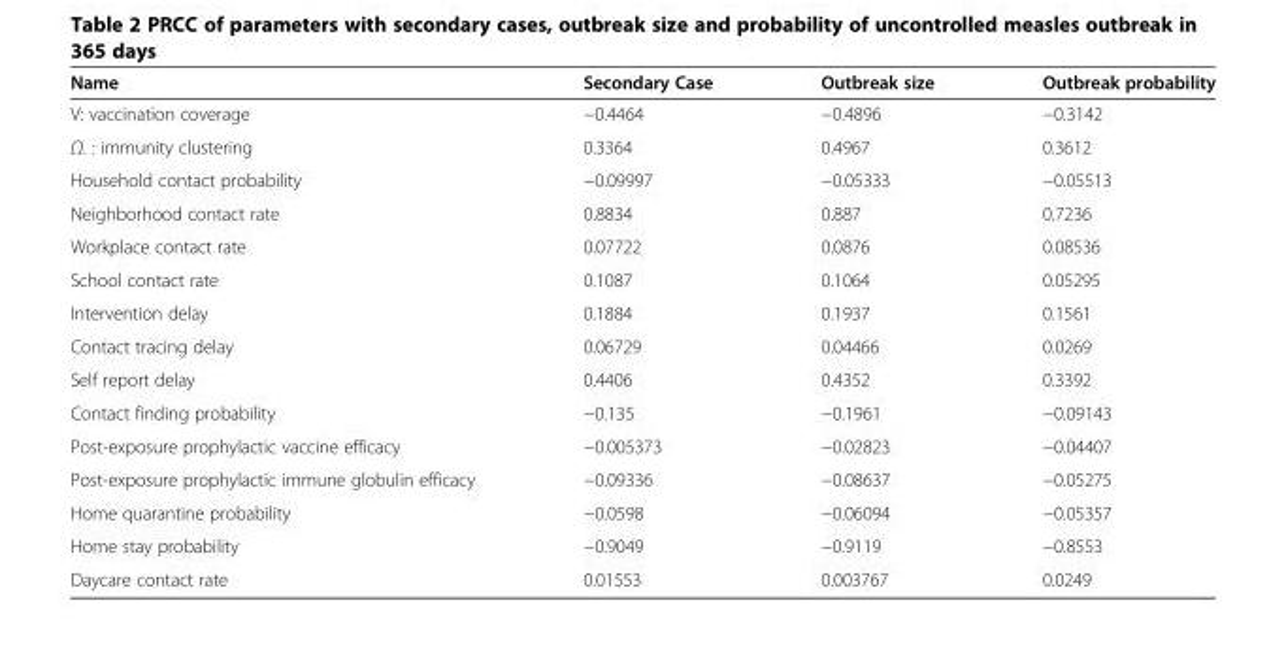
<table><thead><tr><td>Name</td><td>Secondary Case</td><td>Outbreak size</td><td>Outbreak probability</td></tr></thead><tbody><tr><td>V: vaccination coverage</td><td>−0.4464</td><td>−0.4896</td><td>−0.3142</td></tr><tr><td>Ω. : immunity clustering</td><td>0.3364</td><td>0.4967</td><td>0.3612</td></tr><tr><td>Household contact probability</td><td>−0.09997</td><td>−0.05333</td><td>−0.05513</td></tr><tr><td>Neighborhood contact rate</td><td>0.8834</td><td>0.887</td><td>0.7236</td></tr><tr><td>Workplace contact rate</td><td>0.07722</td><td>0.0876</td><td>0.08536</td></tr><tr><td>School contact rate</td><td>0.1087</td><td>0.1064</td><td>0.05295</td></tr><tr><td>Intervention delay</td><td>0.1884</td><td>0.1937</td><td>0.1561</td></tr><tr><td>Contact tracing delay</td><td>0.06729</td><td>0.04466</td><td>0.0269</td></tr><tr><td>Self report delay</td><td>0.4406</td><td>0.4352</td><td>0.3392</td></tr><tr><td>Contact finding probability</td><td>−0.135</td><td>−0.1961</td><td>−0.09143</td></tr><tr><td>Post-exposure prophylactic vaccine efficacy</td><td>−0.005373</td><td>−0.02823</td><td>−0.04407</td></tr><tr><td>Post-exposure prophylactic immune globulin efficacy</td><td>−0.09336</td><td>−0.08637</td><td>−0.05275</td></tr><tr><td>Home quarantine probability</td><td>−0.0598</td><td>−0.06094</td><td>−0.05357</td></tr><tr><td>Home stay probability</td><td>−0.9049</td><td>−0.9119</td><td>−0.8553</td></tr><tr><td>Daycare contact rate</td><td>0.01553</td><td>0.003767</td><td>0.0249</td></tr></tbody></table>